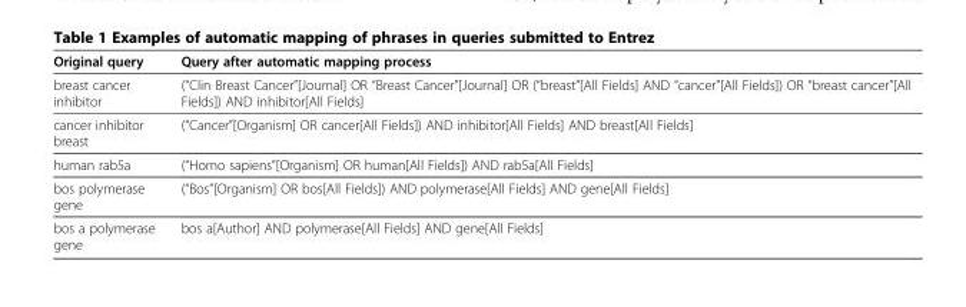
<table><thead><tr><td>Original query</td><td>Query after automatic mapping process</td></tr></thead><tbody><tr><td>breast cancer inhibitor</td><td>(“Clin Breast Cancer”[Journal] OR “Breast Cancer”[Journal] OR (“breast”[All Fields] AND “cancer”[All Fields]) OR “breast cancer”[All Fields]) AND inhibitor[All Fields]</td></tr><tr><td>cancer inhibitor breast</td><td>(“Cancer”[Organism] OR cancer[All Fields]) AND inhibitor[All Fields] AND breast[All Fields]</td></tr><tr><td>human rab5a</td><td>(“Homo sapiens”[Organism] OR human[All Fields]) AND rab5a[All Fields]</td></tr><tr><td>bos polymerase gene</td><td>(“Bos”[Organism] OR bos[All Fields]) AND polymerase[All Fields] AND gene[All Fields]</td></tr><tr><td>bos a polymerase gene</td><td>bos a[Author] AND polymerase[All Fields] AND gene[All Fields]</td></tr></tbody></table>